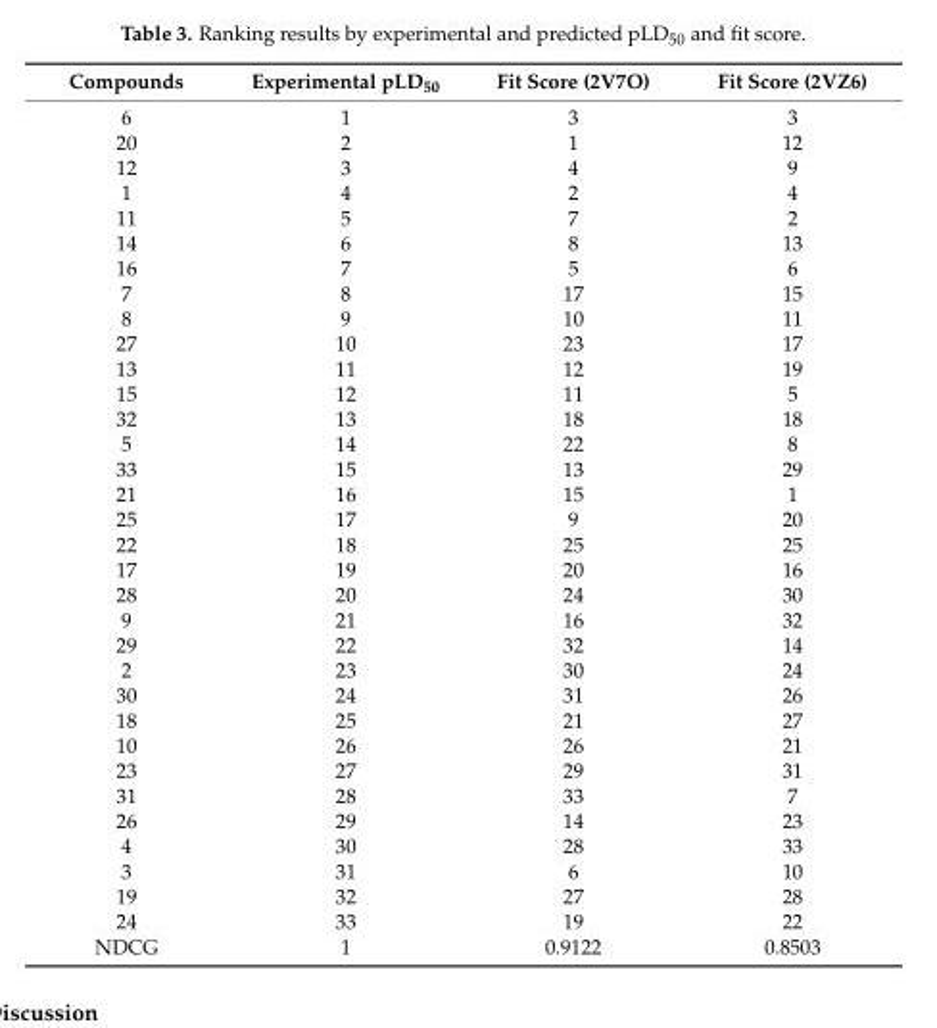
<table><thead><tr><td>Compounds</td><td>Experimental pLD<sub>50</sub></td><td>Fit Score (2V7O)</td><td>Fit Score (2VZ6)</td></tr></thead><tbody><tr><td>6</td><td>1</td><td>3</td><td>3</td></tr><tr><td>20</td><td>2</td><td>1</td><td>12</td></tr><tr><td>12</td><td>3</td><td>4</td><td>9</td></tr><tr><td>1</td><td>4</td><td>2</td><td>4</td></tr><tr><td>11</td><td>5</td><td>7</td><td>2</td></tr><tr><td>14</td><td>6</td><td>8</td><td>13</td></tr><tr><td>16</td><td>7</td><td>5</td><td>6</td></tr><tr><td>7</td><td>8</td><td>17</td><td>15</td></tr><tr><td>8</td><td>9</td><td>10</td><td>11</td></tr><tr><td>27</td><td>10</td><td>23</td><td>17</td></tr><tr><td>13</td><td>11</td><td>12</td><td>19</td></tr><tr><td>15</td><td>12</td><td>11</td><td>5</td></tr><tr><td>32</td><td>13</td><td>18</td><td>18</td></tr><tr><td>5</td><td>14</td><td>22</td><td>8</td></tr><tr><td>33</td><td>15</td><td>13</td><td>29</td></tr><tr><td>21</td><td>16</td><td>15</td><td>1</td></tr><tr><td>25</td><td>17</td><td>9</td><td>20</td></tr><tr><td>22</td><td>18</td><td>25</td><td>25</td></tr><tr><td>17</td><td>19</td><td>20</td><td>16</td></tr><tr><td>28</td><td>20</td><td>24</td><td>30</td></tr><tr><td>9</td><td>21</td><td>16</td><td>32</td></tr><tr><td>29</td><td>22</td><td>32</td><td>14</td></tr><tr><td>2</td><td>23</td><td>30</td><td>24</td></tr><tr><td>30</td><td>24</td><td>31</td><td>26</td></tr><tr><td>18</td><td>25</td><td>21</td><td>27</td></tr><tr><td>10</td><td>26</td><td>26</td><td>21</td></tr><tr><td>23</td><td>27</td><td>29</td><td>31</td></tr><tr><td>31</td><td>28</td><td>33</td><td>7</td></tr><tr><td>26</td><td>29</td><td>14</td><td>23</td></tr><tr><td>4</td><td>30</td><td>28</td><td>33</td></tr><tr><td>3</td><td>31</td><td>6</td><td>10</td></tr><tr><td>19</td><td>32</td><td>27</td><td>28</td></tr><tr><td>24</td><td>33</td><td>19</td><td>22</td></tr><tr><td>NDCG</td><td>1</td><td>0.9122</td><td>0.8503</td></tr></tbody></table>